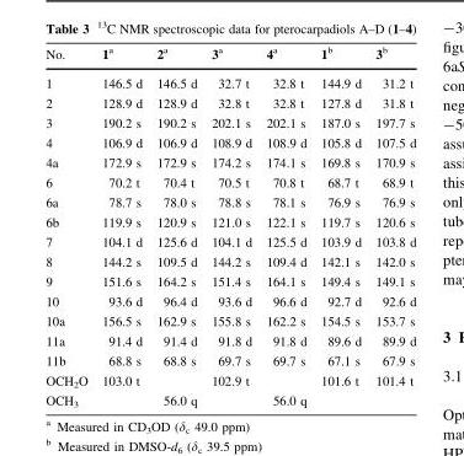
<table><thead><tr><td>No.</td><td>1<sup>a</sup></td><td>2<sup>a</sup></td><td>3<sup>a</sup></td><td>4<sup>a</sup></td><td>1<sup>b</sup></td><td>3<sup>b</sup></td></tr></thead><tbody><tr><td>1</td><td>146.5 d</td><td>146.5 d</td><td>32.7 t</td><td>32.8 t</td><td>144.9 d</td><td>31.2 t</td></tr><tr><td>2</td><td>128.9 d</td><td>128.9 d</td><td>32.8 t</td><td>32.8 t</td><td>127.8 d</td><td>31.8 t</td></tr><tr><td>3</td><td>190.2 s</td><td>190.2 s</td><td>202.1 s</td><td>202.1 s</td><td>187.0 s</td><td>197.7 s</td></tr><tr><td>4</td><td>106.9 d</td><td>106.9 d</td><td>108.9 d</td><td>108.9 d</td><td>105.8 d</td><td>107.5 d</td></tr><tr><td>4a</td><td>172.9 s</td><td>172.9 s</td><td>174.2 s</td><td>174.1 s</td><td>169.8 s</td><td>170.9 s</td></tr><tr><td>6</td><td>70.2 t</td><td>70.4 t</td><td>70.5 t</td><td>70.8 t</td><td>68.7 t</td><td>68.9 t</td></tr><tr><td>6a</td><td>78.7 s</td><td>78.0 s</td><td>78.8 s</td><td>78.1 s</td><td>76.9 s</td><td>76.9 s</td></tr><tr><td>6b</td><td>119.9 s</td><td>120.9 s</td><td>121.0 s</td><td>122.1 s</td><td>119.7 s</td><td>120.6 s</td></tr><tr><td>7</td><td>104.1 d</td><td>125.6 d</td><td>104.1 d</td><td>125.5 d</td><td>103.9 d</td><td>103.8 d</td></tr><tr><td>8</td><td>144.2 s</td><td>109.5 d</td><td>144.2 s</td><td>109.4 d</td><td>142.1 s</td><td>142.0 s</td></tr><tr><td>9</td><td>151.6 s</td><td>164.2 s</td><td>151.4 s</td><td>164.1 s</td><td>149.4 s</td><td>149.1 s</td></tr><tr><td>10</td><td>93.6 d</td><td>96.4 d</td><td>93.6 d</td><td>96.6 d</td><td>92.7 d</td><td>92.6 d</td></tr><tr><td>10a</td><td>156.5 s</td><td>162.9 s</td><td>155.8 s</td><td>162.2 s</td><td>154.5 s</td><td>153.7 s</td></tr><tr><td>11a</td><td>91.4 d</td><td>91.4 d</td><td>91.8 d</td><td>91.8 d</td><td>89.6 d</td><td>89.9 d</td></tr><tr><td>11b</td><td>68.8 s</td><td>68.8 s</td><td>69.7 s</td><td>69.7 s</td><td>67.1 s</td><td>67.9 s</td></tr><tr><td>OCH<sub>2</sub>O</td><td>103.0 t</td><td></td><td>102.9 t</td><td></td><td>101.6 t</td><td>101.4 t</td></tr><tr><td>OCH<sub>3</sub></td><td></td><td>56.0 q</td><td></td><td>56.0 q</td><td></td><td></td></tr></tbody></table>